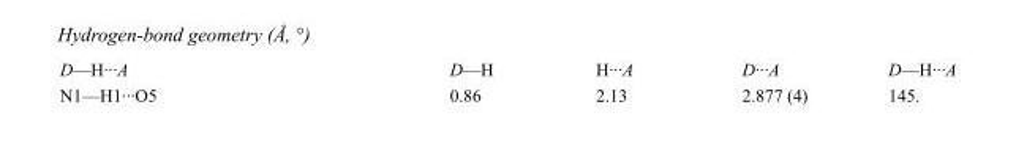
<table><tbody><tr><td>D—H···A</td><td>D—H</td><td>H···A</td><td>D···A</td><td>D—H···A</td></tr><tr><td>N1—H1···O5</td><td>0.86</td><td>2.13</td><td>2.877 (4)</td><td>145.</td></tr></tbody></table>